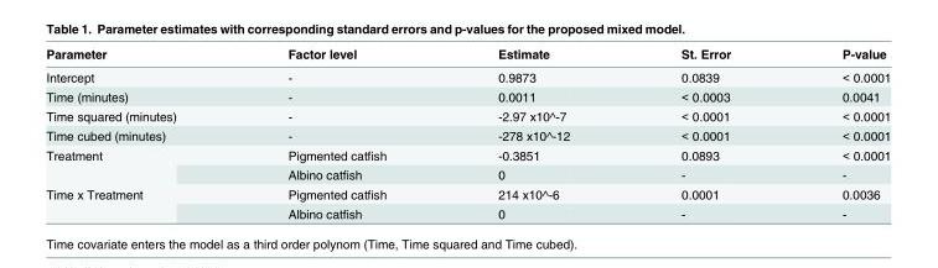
<table><thead><tr><td>Parameter</td><td>Factor level</td><td>Estimate</td><td>St. Error</td><td>P-value</td></tr></thead><tbody><tr><td>Intercept</td><td>-</td><td>0.9873</td><td>0.0839</td><td>&lt; 0.0001</td></tr><tr><td>Time (minutes)</td><td>-</td><td>0.0011</td><td>&lt; 0.0003</td><td>0.0041</td></tr><tr><td>Time squared (minutes)</td><td>-</td><td>-2.97 x10^-7</td><td>&lt; 0.0001</td><td>&lt; 0.0001</td></tr><tr><td>Time cubed (minutes)</td><td>-</td><td>-278 x10^-12</td><td>&lt; 0.0001</td><td>&lt; 0.0001</td></tr><tr><td rowspan="2">Treatment</td><td>Pigmented catfish</td><td>-0.3851</td><td>0.0893</td><td>&lt; 0.0001</td></tr><tr><td>Albino catfish</td><td>0</td><td>-</td><td>-</td></tr><tr><td rowspan="2">Time x Treatment</td><td>Pigmented catfish</td><td>214 x10^-6</td><td>0.0001</td><td>0.0036</td></tr><tr><td>Albino catfish</td><td>0</td><td>-</td><td>-</td></tr></tbody></table>